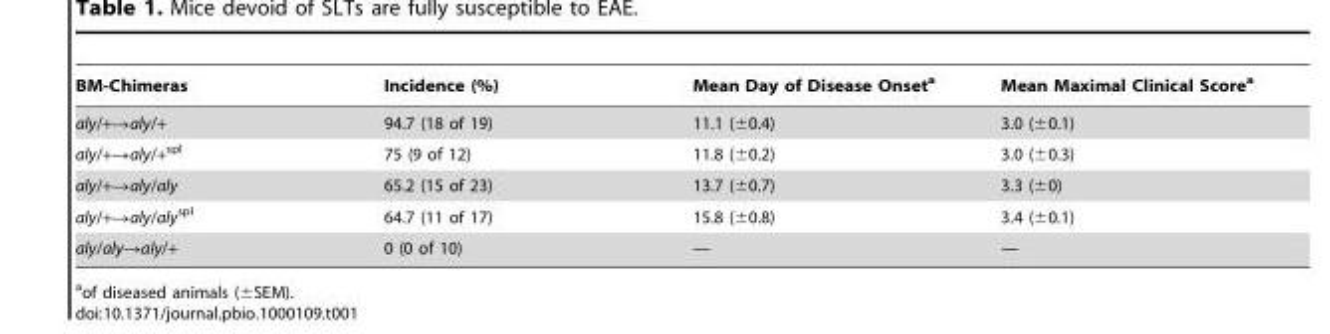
<table><thead><tr><td>BM-Chimeras</td><td>Incidence (%)</td><td>Mean Day of Disease Onset<sup>a</sup></td><td>Mean Maximal Clinical Score<sup>a</sup></td></tr></thead><tbody><tr><td>aly/+→aly/+</td><td>94.7 (18 of 19)</td><td>11.1 (±0.4)</td><td>3.0 (±0.1)</td></tr><tr><td>aly/+→aly/+<sup>spl</sup></td><td>75 (9 of 12)</td><td>11.8 (±0.2)</td><td>3.0 (±0.3)</td></tr><tr><td>aly/+→aly/aly</td><td>65.2 (15 of 23)</td><td>13.7 (±0.7)</td><td>3.3 (±0)</td></tr><tr><td>aly/+→aly/aly<sup>spl</sup></td><td>64.7 (11 of 17)</td><td>15.8 (±0.8)</td><td>3.4 (±0.1)</td></tr><tr><td>aly/aly→aly/+</td><td>0 (0 of 10)</td><td>—</td><td>—</td></tr></tbody></table>